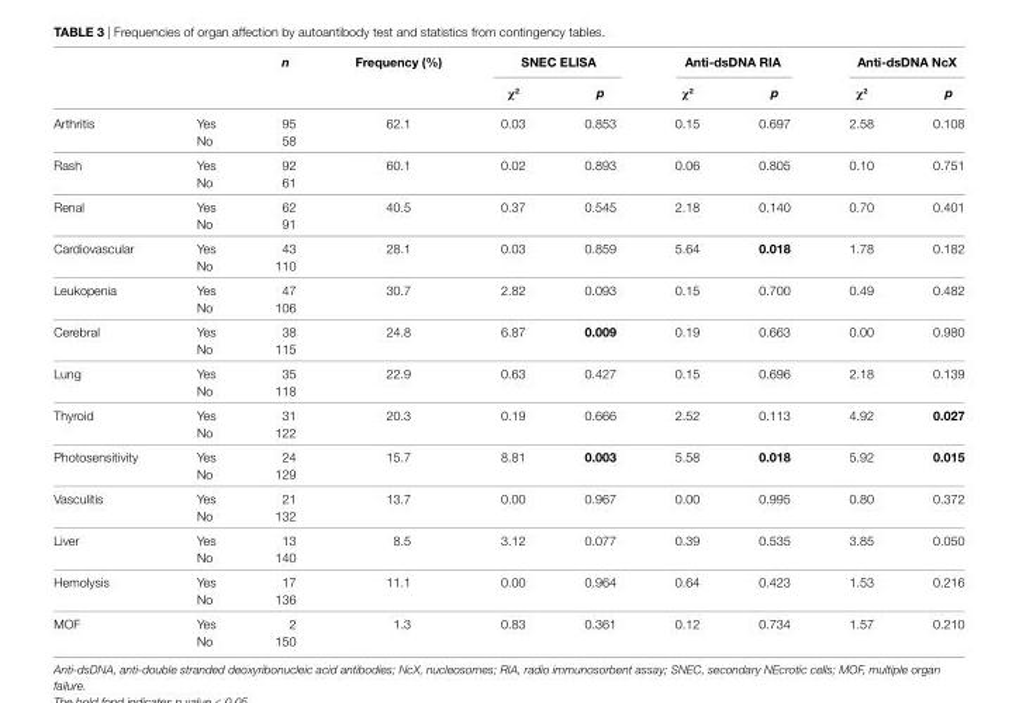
<table><thead><tr><td rowspan="2"></td><td rowspan="2"></td><td rowspan="2">n</td><td rowspan="2">Frequency (%)</td><td colspan="2">snec elisa</td><td colspan="2">anti-dsDna ria</td><td colspan="2">anti-dsDna ncX</td></tr><tr><td>χ<sup>2</sup></td><td>p</td><td>χ<sup>2</sup></td><td>p</td><td>χ<sup>2</sup></td><td>p</td></tr></thead><tbody><tr><td rowspan="2">Arthritis</td><td>Yes</td><td>95</td><td>62.1</td><td>0.03</td><td>0.853</td><td>0.15</td><td>0.697</td><td>2.58</td><td>0.108</td></tr><tr><td>No</td><td>58</td><td></td><td></td><td></td><td></td><td></td><td></td><td></td></tr><tr><td rowspan="2">Rash</td><td>Yes</td><td>92</td><td>60.1</td><td>0.02</td><td>0.893</td><td>0.06</td><td>0.805</td><td>0.10</td><td>0.751</td></tr><tr><td>No</td><td>61</td><td></td><td></td><td></td><td></td><td></td><td></td><td></td></tr><tr><td rowspan="2">Renal</td><td>Yes</td><td>62</td><td>40.5</td><td>0.37</td><td>0.545</td><td>2.18</td><td>0.140</td><td>0.70</td><td>0.401</td></tr><tr><td>No</td><td>91</td><td></td><td></td><td></td><td></td><td></td><td></td><td></td></tr><tr><td rowspan="2">Cardiovascular</td><td>Yes</td><td>43</td><td>28.1</td><td>0.03</td><td>0.859</td><td>5.64</td><td>0.018</td><td>1.78</td><td>0.182</td></tr><tr><td>No</td><td>110</td><td></td><td></td><td></td><td></td><td></td><td></td><td></td></tr><tr><td rowspan="2">Leukopenia</td><td>Yes</td><td>47</td><td>30.7</td><td>2.82</td><td>0.093</td><td>0.15</td><td>0.700</td><td>0.49</td><td>0.482</td></tr><tr><td>No</td><td>106</td><td></td><td></td><td></td><td></td><td></td><td></td><td></td></tr><tr><td rowspan="2">Cerebral</td><td>Yes</td><td>38</td><td>24.8</td><td>6.87</td><td>0.009</td><td>0.19</td><td>0.663</td><td>0.00</td><td>0.980</td></tr><tr><td>No</td><td>115</td><td></td><td></td><td></td><td></td><td></td><td></td><td></td></tr><tr><td rowspan="2">Lung</td><td>Yes</td><td>35</td><td>22.9</td><td>0.63</td><td>0.427</td><td>0.15</td><td>0.696</td><td>2.18</td><td>0.139</td></tr><tr><td>No</td><td>118</td><td></td><td></td><td></td><td></td><td></td><td></td><td></td></tr><tr><td rowspan="2">Thyroid</td><td>Yes</td><td>31</td><td>20.3</td><td>0.19</td><td>0.666</td><td>2.52</td><td>0.113</td><td>4.92</td><td>0.027</td></tr><tr><td>No</td><td>122</td><td></td><td></td><td></td><td></td><td></td><td></td><td></td></tr><tr><td rowspan="2">Photosensitivity</td><td>Yes</td><td>24</td><td>15.7</td><td>8.81</td><td>0.003</td><td>5.58</td><td>0.018</td><td>5.92</td><td>0.015</td></tr><tr><td>No</td><td>129</td><td></td><td></td><td></td><td></td><td></td><td></td><td></td></tr><tr><td rowspan="2">Vasculitis</td><td>Yes</td><td>21</td><td>13.7</td><td>0.00</td><td>0.967</td><td>0.00</td><td>0.995</td><td>0.80</td><td>0.372</td></tr><tr><td>No</td><td>132</td><td></td><td></td><td></td><td></td><td></td><td></td><td></td></tr><tr><td rowspan="2">Liver</td><td>Yes</td><td>13</td><td>8.5</td><td>3.12</td><td>0.077</td><td>0.39</td><td>0.535</td><td>3.85</td><td>0.050</td></tr><tr><td>No</td><td>140</td><td></td><td></td><td></td><td></td><td></td><td></td><td></td></tr><tr><td rowspan="2">Hemolysis</td><td>Yes</td><td>17</td><td>11.1</td><td>0.00</td><td>0.964</td><td>0.64</td><td>0.423</td><td>1.53</td><td>0.216</td></tr><tr><td>No</td><td>136</td><td></td><td></td><td></td><td></td><td></td><td></td><td></td></tr><tr><td rowspan="2">MOF</td><td>Yes</td><td>2</td><td>1.3</td><td>0.83</td><td>0.361</td><td>0.12</td><td>0.734</td><td>1.57</td><td>0.210</td></tr><tr><td>No</td><td>150</td><td></td><td></td><td></td><td></td><td></td><td></td><td></td></tr></tbody></table>